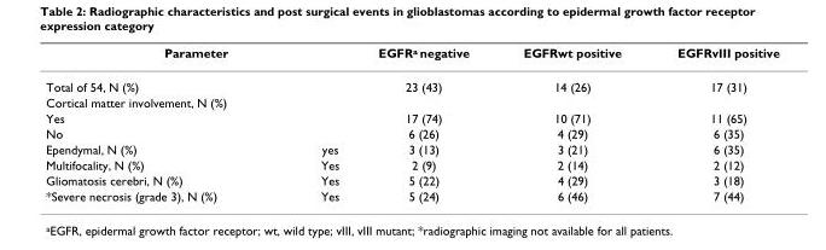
<table><thead><tr><td colspan="2">Parameter</td><td rowspan="2">EGFR<sup>a</sup> negative 23 (43)</td><td rowspan="2">EGFRwt positive 14 (26)</td><td rowspan="2">EGFRvIII positive 17 (31)</td></tr><tr><td>Total of 54, N (%)</td><td></td></tr></thead><tbody><tr><td colspan="5">Cortical matter involvement, N (%)</td></tr><tr><td>Yes</td><td></td><td>17 (74)</td><td>10 (71)</td><td>11 (65)</td></tr><tr><td>No</td><td></td><td>6 (26)</td><td>4 (29)</td><td>6 (35)</td></tr><tr><td>Ependymal, N (%)</td><td>yes</td><td>3 (13)</td><td>3 (21)</td><td>6 (35)</td></tr><tr><td>Multifocality, N (%)</td><td>Yes</td><td>2 (9)</td><td>2 (14)</td><td>2 (12)</td></tr><tr><td>Gliomatosis cerebri, N (%)</td><td>Yes</td><td>5 (22)</td><td>4 (29)</td><td>3 (18)</td></tr><tr><td>*Severe necrosis (grade 3), N (%)</td><td>Yes</td><td>5 (24)</td><td>6 (46)</td><td>7 (44)</td></tr></tbody></table>